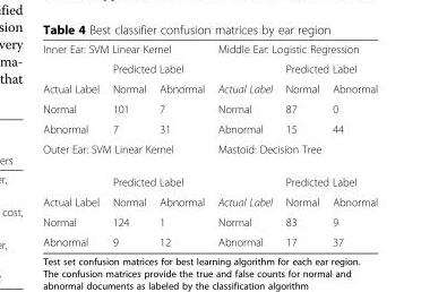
<table><tbody><tr><td colspan="3">Inner Ear: SVM Linear Kernel</td><td colspan="3">Middle Ear: Logistic Regression</td></tr><tr><td></td><td colspan="2">Predicted Label</td><td></td><td colspan="2">Predicted Label</td></tr><tr><td>Actual Label</td><td>Normal</td><td>Abnormal</td><td>Actual Label</td><td>Normal</td><td>Abnormal</td></tr><tr><td>Normal</td><td>101</td><td>7</td><td>Normal</td><td>87</td><td>0</td></tr><tr><td>Abnormal</td><td>7</td><td>31</td><td>Abnormal</td><td>15</td><td>44</td></tr><tr><td colspan="3">Outer Ear: SVM Linear Kernel</td><td colspan="3">Mastoid: Decision Tree</td></tr><tr><td></td><td colspan="2">Predicted Label</td><td></td><td colspan="2">Predicted Label</td></tr><tr><td>Actual Label</td><td>Normal</td><td>Abnormal</td><td>Actual Label</td><td>Normal</td><td>Abnormal</td></tr><tr><td>Normal</td><td>124</td><td>1</td><td>Normal</td><td>83</td><td>9</td></tr><tr><td>Abnormal</td><td>9</td><td>12</td><td>Abnormal</td><td>17</td><td>37</td></tr></tbody></table>